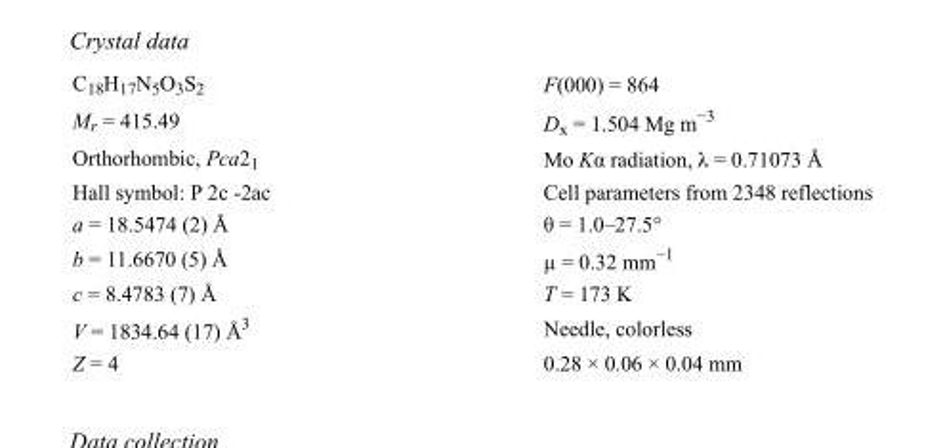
<table><tbody><tr><td>C<sub>18</sub>H<sub>17</sub>N<sub>5</sub>O<sub>3</sub>S<sub>2</sub></td><td>F(000) = 864</td></tr><tr><td>M<sub>r</sub> = 415.49</td><td>D<sub>x</sub> = 1.504 Mg m<sup>−3</sup></td></tr><tr><td>Orthorhombic, Pca2<sub>1</sub></td><td>Mo Kα radiation, λ = 0.71073 Å</td></tr><tr><td>Hall symbol: P 2c -2ac</td><td>Cell parameters from 2348 reflections</td></tr><tr><td>a = 18.5474 (2) Å</td><td>θ = 1.0–27.5°</td></tr><tr><td>b = 11.6670 (5) Å</td><td>µ = 0.32 mm<sup>−1</sup></td></tr><tr><td>c = 8.4783 (7) Å</td><td>T = 173 K</td></tr><tr><td>V = 1834.64 (17) Å<sup>3</sup></td><td>Needle, colorless</td></tr><tr><td>Z = 4</td><td>0.28 × 0.06 × 0.04 mm</td></tr></tbody></table>